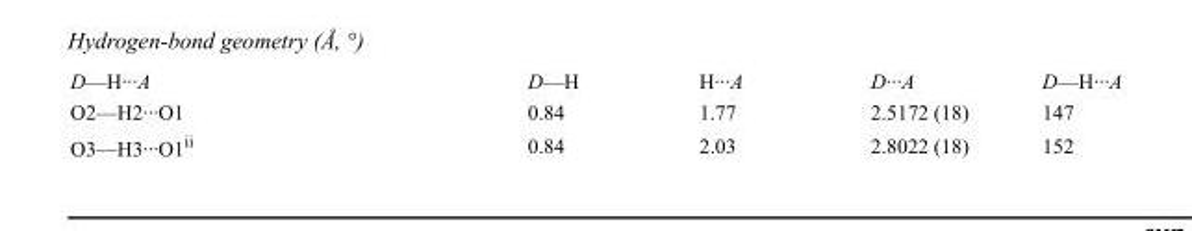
<table><tbody><tr><td>D—H···A</td><td>D—H</td><td>H···A</td><td>D···A</td><td>D—H···A</td></tr><tr><td>O2—H2···O1</td><td>0.84</td><td>1.77</td><td>2.5172 (18)</td><td>147</td></tr><tr><td>O3—H3···O1<sup>ii</sup></td><td>0.84</td><td>2.03</td><td>2.8022 (18)</td><td>152</td></tr></tbody></table>